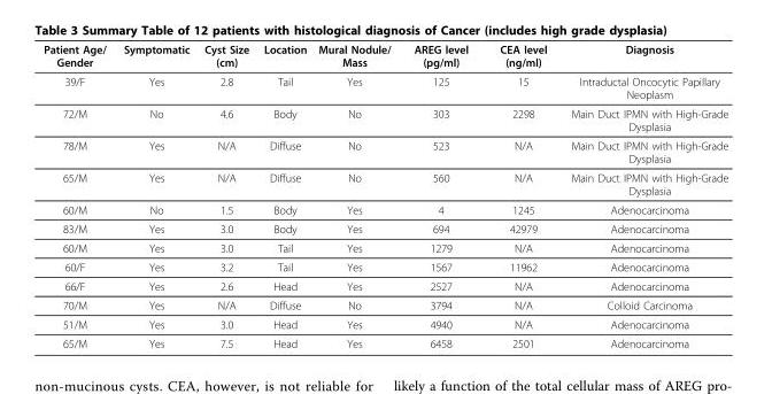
<table><thead><tr><td>Patient Age/ Gender</td><td>Symptomatic</td><td>Cyst Size (cm)</td><td>Location</td><td>Mural Nodule/ Mass</td><td>AREG level (pg/ml)</td><td>CEA level (ng/ml)</td><td>Diagnosis</td></tr></thead><tbody><tr><td>39/F</td><td>Yes</td><td>2.8</td><td>Tail</td><td>Yes</td><td>125</td><td>15</td><td>Intraductal Oncocytic Papillary Neoplasm</td></tr><tr><td>72/M</td><td>No</td><td>4.6</td><td>Body</td><td>No</td><td>303</td><td>2298</td><td>Main Duct IPMN with High-Grade Dysplasia</td></tr><tr><td>78/M</td><td>Yes</td><td>N/A</td><td>Diffuse</td><td>No</td><td>523</td><td>N/A</td><td>Main Duct IPMN with High-Grade Dysplasia</td></tr><tr><td>65/M</td><td>Yes</td><td>N/A</td><td>Diffuse</td><td>No</td><td>560</td><td>N/A</td><td>Main Duct IPMN with High-Grade Dysplasia</td></tr><tr><td>60/M</td><td>No</td><td>1.5</td><td>Body</td><td>Yes</td><td>4</td><td>1245</td><td>Adenocarcinoma</td></tr><tr><td>83/M</td><td>Yes</td><td>3.0</td><td>Body</td><td>Yes</td><td>694</td><td>42979</td><td>Adenocarcinoma</td></tr><tr><td>60/M</td><td>Yes</td><td>3.0</td><td>Tail</td><td>Yes</td><td>1279</td><td>N/A</td><td>Adenocarcinoma</td></tr><tr><td>60/F</td><td>Yes</td><td>3.2</td><td>Tail</td><td>Yes</td><td>1567</td><td>11962</td><td>Adenocarcinoma</td></tr><tr><td>66/F</td><td>Yes</td><td>2.6</td><td>Head</td><td>Yes</td><td>2527</td><td>N/A</td><td>Adenocarcinoma</td></tr><tr><td>70/M</td><td>Yes</td><td>N/A</td><td>Diffuse</td><td>No</td><td>3794</td><td>N/A</td><td>Colloid Carcinoma</td></tr><tr><td>51/M</td><td>Yes</td><td>3.0</td><td>Head</td><td>Yes</td><td>4940</td><td>N/A</td><td>Adenocarcinoma</td></tr><tr><td>65/M</td><td>Yes</td><td>7.5</td><td>Head</td><td>Yes</td><td>6458</td><td>2501</td><td>Adenocarcinoma</td></tr></tbody></table>